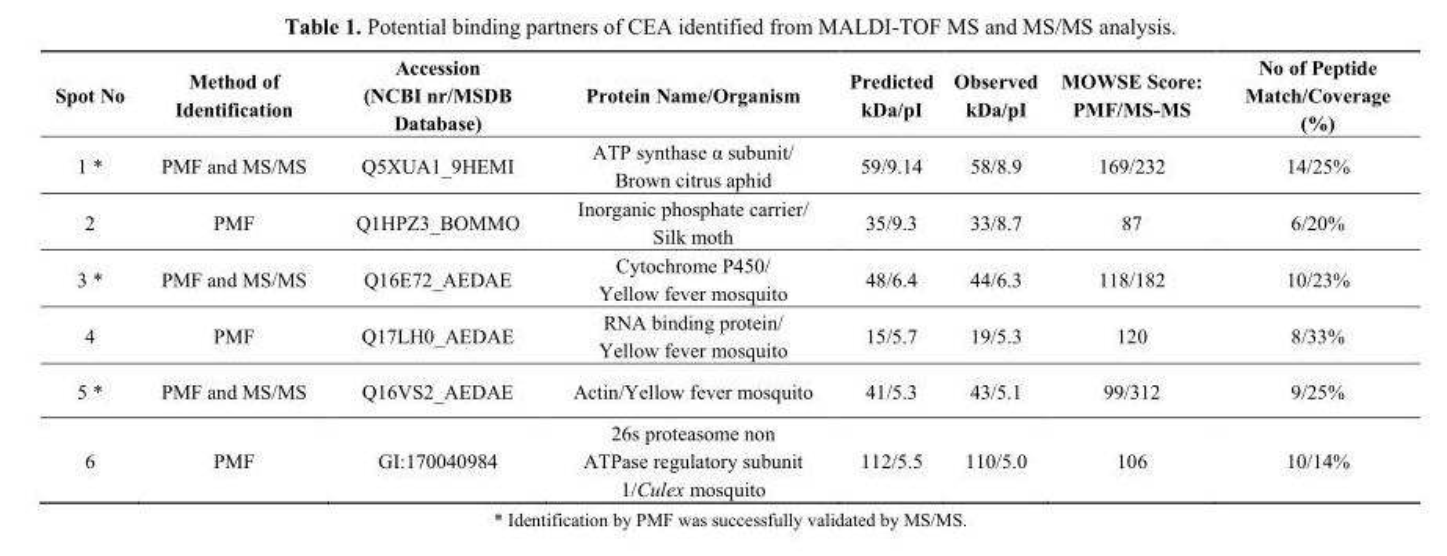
<table><thead><tr><td>Spot No</td><td>Method of Identification</td><td>Accession (NCBI nr/MSDB Database)</td><td>Protein Name/Organism</td><td>Predicted kDa/pI</td><td>Observed kDa/pI</td><td>MOWSE Score: PMF/MS-MS</td><td>No of Peptide Match/Coverage (%)</td></tr></thead><tbody><tr><td>1 *</td><td>PMF and MS/MS</td><td>Q5XUA1_9HEMI</td><td>ATP synthase α subunit/ Brown citrus aphid</td><td>59/9.14</td><td>58/8.9</td><td>169/232</td><td>14/25%</td></tr><tr><td>2</td><td>PMF</td><td>Q1HPZ3_BOMMO</td><td>Inorganic phosphate carrier/ Silk moth</td><td>35/9.3</td><td>33/8.7</td><td>87</td><td>6/20%</td></tr><tr><td>3 *</td><td>PMF and MS/MS</td><td>Q16E72_AEDAE</td><td>Cytochrome P450/ Yellow fever mosquito</td><td>48/6.4</td><td>44/6.3</td><td>118/182</td><td>10/23%</td></tr><tr><td>4</td><td>PMF</td><td>Q17LH0_AEDAE</td><td>RNA binding protein/ Yellow fever mosquito</td><td>15/5.7</td><td>19/5.3</td><td>120</td><td>8/33%</td></tr><tr><td>5 *</td><td>PMF and MS/MS</td><td>Q16VS2_AEDAE</td><td>Actin/Yellow fever mosquito</td><td>41/5.3</td><td>43/5.1</td><td>99/312</td><td>9/25%</td></tr><tr><td>6</td><td>PMF</td><td>GI:170040984</td><td>26s proteasome non ATPase regulatory subunit 1/Culex mosquito</td><td>112/5.5</td><td>110/5.0</td><td>106</td><td>10/14%</td></tr></tbody></table>